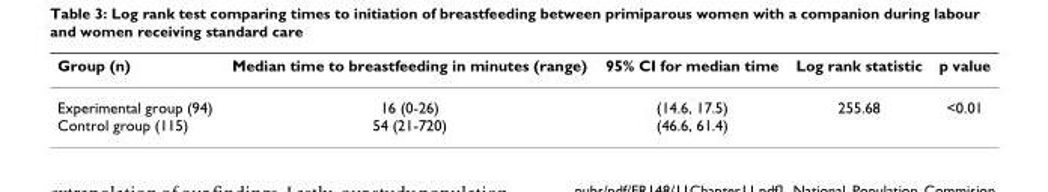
<table><thead><tr><td>Group (n)</td><td>Median time to breastfeeding in minutes (range)</td><td>95% CI for median time</td><td>Log rank statistic</td><td>p value</td></tr></thead><tbody><tr><td>Experimental group (94) Control group (115)</td><td>16 (0-26) 54 (21-720)</td><td>(14.6, 17.5) (46.6, 61.4)</td><td>255.68</td><td>&lt;0.01</td></tr></tbody></table>